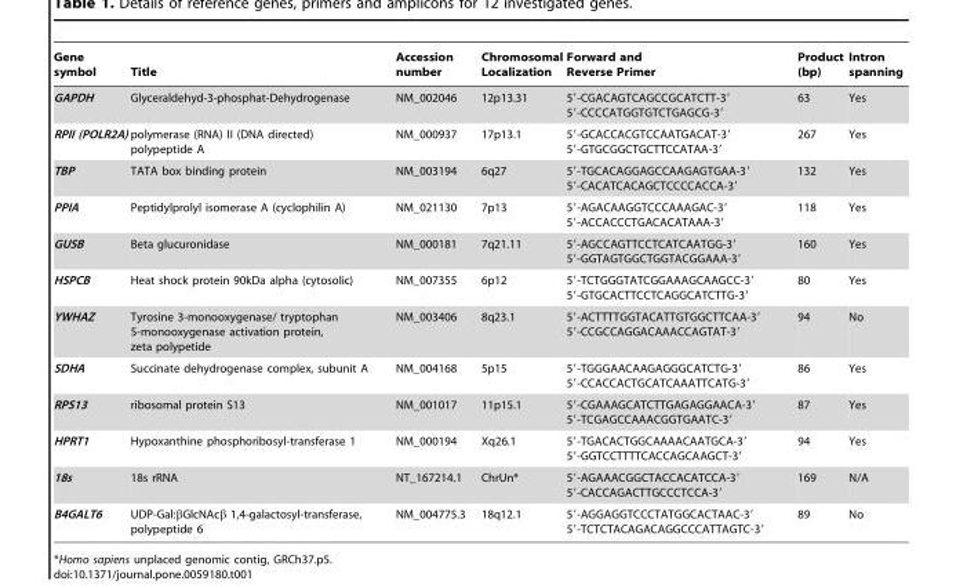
<table><thead><tr><td>Gene symbol</td><td>Title</td><td>Accession number</td><td>Chromosomal Localization</td><td>Forward and Reverse Primer</td><td>Product (bp)</td><td>Intron spanning</td></tr></thead><tbody><tr><td>GAPDH</td><td>Glyceraldehyd-3-phosphat-Dehydrogenase</td><td>NM_002046</td><td>12p13.31</td><td>5′-CGACAGTCAGCCGCATCTT-3′ 5′-CCCCATGGTGTCTGAGCG-3′</td><td>63</td><td>Yes</td></tr><tr><td>RPII (POLR2A)</td><td>polymerase (RNA) II (DNA directed) polypeptide A</td><td>NM_000937</td><td>17p13.1</td><td>5′-GCACCACGTCCAATGACAT-3′ 5′-GTGCGGCTGCTTCCATAA-3′</td><td>267</td><td>Yes</td></tr><tr><td>TBP</td><td>TATA box binding protein</td><td>NM_003194</td><td>6q27</td><td>5′-TGCACAGGAGCCAAGAGTGAA-3′ 5′-CACATCACAGCTCCCCACCA-3′</td><td>132</td><td>Yes</td></tr><tr><td>PPIA</td><td>Peptidylprolyl isomerase A (cyclophilin A)</td><td>NM_021130</td><td>7p13</td><td>5′-AGACAAGGTCCCAAAGAC-3′ 5′-ACCACCCTGACACATAAA-3′</td><td>118</td><td>Yes</td></tr><tr><td>GUSB</td><td>Beta glucuronidase</td><td>NM_000181</td><td>7q21.11</td><td>5′-AGCCAGTTCCTCATCAATGG-3′ 5′-GGTAGTGGCTGGTACGGAAA-3′</td><td>160</td><td>Yes</td></tr><tr><td>HSPCB</td><td>Heat shock protein 90kDa alpha (cytosolic)</td><td>NM_007355</td><td>6p12</td><td>5′-TCTGGGTATCGGAAAGCAAGCC-3′ 5′-GTGCACTTCCTCAGGCATCTTG-3′</td><td>80</td><td>Yes</td></tr><tr><td>YWHAZ</td><td>Tyrosine 3-monooxygenase/ tryptophan 5-monooxygenase activation protein, zeta polypetide</td><td>NM_003406</td><td>8q23.1</td><td>5′-ACTTTTGGTACATTGTGGCTTCAA-3′ 5′-CCGCCAGGACAAACCAGTAT-3′</td><td>94</td><td>No</td></tr><tr><td>SDHA</td><td>Succinate dehydrogenase complex, subunit A</td><td>NM_004168</td><td>5p15</td><td>5′-TGGGAACAAGAGGGCATCTG-3′ 5′-CCACCACTGCATCAAATTCATG-3′</td><td>86</td><td>Yes</td></tr><tr><td>RPS13</td><td>ribosomal protein S13</td><td>NM_001017</td><td>11p15.1</td><td>5′-CGAAAGCATCTTGAGAGGAACA-3′ 5′-TCGAGCCAAACGGTGAATC-3′</td><td>87</td><td>Yes</td></tr><tr><td>HPRT1</td><td>Hypoxanthine phosphoribosyl-transferase 1</td><td>NM_000194</td><td>Xq26.1</td><td>5′-TGACACTGGCAAAACAATGCA-3′ 5′-GGTCCTTTTCACCAGCAAGCT-3′</td><td>94</td><td>Yes</td></tr><tr><td>18s</td><td>18s rRNA</td><td>NT_167214.1</td><td>ChrUn*</td><td>5′-AGAAACGGCTACCACATCCA-3′ 5′-CACCAGACTTGCCCTCCA-3′</td><td>169</td><td>N/A</td></tr><tr><td>B4GALT6</td><td>UDP-Gal:βGlcNAcβ 1,4-galactosyl-transferase, polypeptide 6</td><td>NM_004775.3</td><td>18q12.1</td><td>5′-AGGAGGTCCCTATGGCACTAAC-3′ 5′-TCTCTACAGACAGGCCCATTAGTC-3′</td><td>89</td><td>No</td></tr></tbody></table>